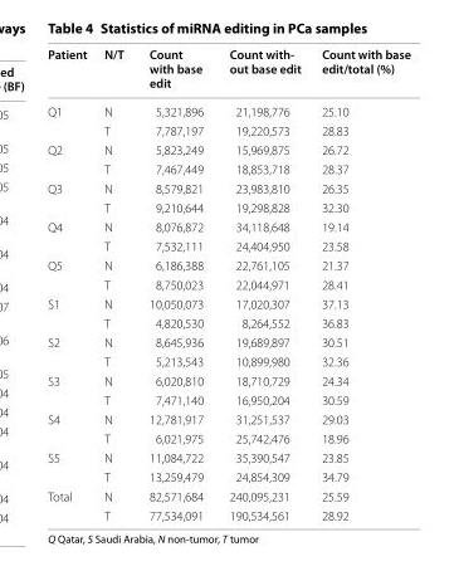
<table><thead><tr><td>Patient</td><td>N/T</td><td>Count with base edit</td><td>Count with‑ out base edit</td><td>Count with base edit/total (%)</td></tr></thead><tbody><tr><td rowspan="2">Q1</td><td>N</td><td>5,321,896</td><td>21,198,776</td><td>25.10</td></tr><tr><td>T</td><td>7,787,197</td><td>19,220,573</td><td>28.83</td></tr><tr><td rowspan="2">Q2</td><td>N</td><td>5,823,249</td><td>15,969,875</td><td>26.72</td></tr><tr><td>T</td><td>7,467,449</td><td>18,853,718</td><td>28.37</td></tr><tr><td rowspan="2">Q3</td><td>N</td><td>8,579,821</td><td>23,983,810</td><td>26.35</td></tr><tr><td>T</td><td>9,210,644</td><td>19,298,828</td><td>32.30</td></tr><tr><td rowspan="2">Q4</td><td>N</td><td>8,076,872</td><td>34,118,648</td><td>19.14</td></tr><tr><td>T</td><td>7,532,111</td><td>24,404,950</td><td>23.58</td></tr><tr><td rowspan="2">Q5</td><td>N</td><td>6,186,388</td><td>22,761,105</td><td>21.37</td></tr><tr><td>T</td><td>8,750,023</td><td>22,044,971</td><td>28.41</td></tr><tr><td rowspan="2">S1</td><td>N</td><td>10,050,073</td><td>17,020,307</td><td>37.13</td></tr><tr><td>T</td><td>4,820,530</td><td>8,264,552</td><td>36.83</td></tr><tr><td rowspan="2">S2</td><td>N</td><td>8,645,936</td><td>19,689,897</td><td>30.51</td></tr><tr><td>T</td><td>5,213,543</td><td>10,899,980</td><td>32.36</td></tr><tr><td rowspan="2">S3</td><td>N</td><td>6,020,810</td><td>18,710,729</td><td>24.34</td></tr><tr><td>T</td><td>7,471,140</td><td>16,950,204</td><td>30.59</td></tr><tr><td rowspan="2">S4</td><td>N</td><td>12,781,917</td><td>31,251,537</td><td>29.03</td></tr><tr><td>T</td><td>6,021,975</td><td>25,742,476</td><td>18.96</td></tr><tr><td rowspan="2">S5</td><td>N</td><td>11,084,722</td><td>35,390,547</td><td>23.85</td></tr><tr><td>T</td><td>13,259,479</td><td>24,854,309</td><td>34.79</td></tr><tr><td rowspan="2">Total</td><td>N</td><td>82,571,684</td><td>240,095,231</td><td>25.59</td></tr><tr><td>T</td><td>77,534,091</td><td>190,534,561</td><td>28.92</td></tr></tbody></table>